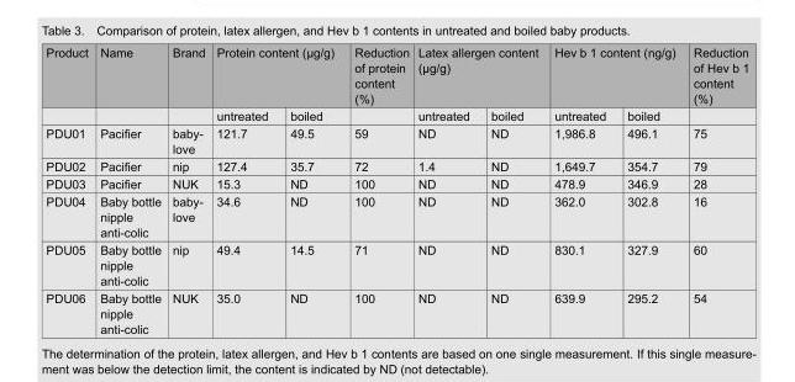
<table><thead><tr><td rowspan="2">Product</td><td rowspan="2">Name</td><td rowspan="2">Brand</td><td colspan="2">Protein content (µg/g)</td><td rowspan="2">Reduction of protein content (%)</td><td colspan="2">Latex allergen content (µg/g)</td><td colspan="2">Hev b 1 content (ng/g)</td><td rowspan="2">Reduction of Hev b 1 content (%)</td></tr><tr><td>untreated</td><td>boiled</td><td>untreated</td><td>boiled</td><td>untreated</td><td>boiled</td></tr></thead><tbody><tr><td>PDU01</td><td>Pacifier</td><td>baby- love</td><td>121.7</td><td>49.5</td><td>59</td><td>ND</td><td>ND</td><td>1,986.8</td><td>496.1</td><td>75</td></tr><tr><td>PDU02</td><td>Pacifier</td><td>nip</td><td>127.4</td><td>35.7</td><td>72</td><td>1.4</td><td>ND</td><td>1,649.7</td><td>354.7</td><td>79</td></tr><tr><td>PDU03</td><td>Pacifier</td><td>NUK</td><td>15.3</td><td>ND</td><td>100</td><td>ND</td><td>ND</td><td>478.9</td><td>346.9</td><td>28</td></tr><tr><td>PDU04</td><td>Baby bottle nipple anti-colic</td><td>baby- love</td><td>34.6</td><td>ND</td><td>100</td><td>ND</td><td>ND</td><td>362.0</td><td>302.8</td><td>16</td></tr><tr><td>PDU05</td><td>Baby bottle nipple anti-colic</td><td>nip</td><td>49.4</td><td>14.5</td><td>71</td><td>ND</td><td>ND</td><td>830.1</td><td>327.9</td><td>60</td></tr><tr><td>PDU06</td><td>Baby bottle nipple anti-colic</td><td>NUK</td><td>35.0</td><td>ND</td><td>100</td><td>ND</td><td>ND</td><td>639.9</td><td>295.2</td><td>54</td></tr></tbody></table>